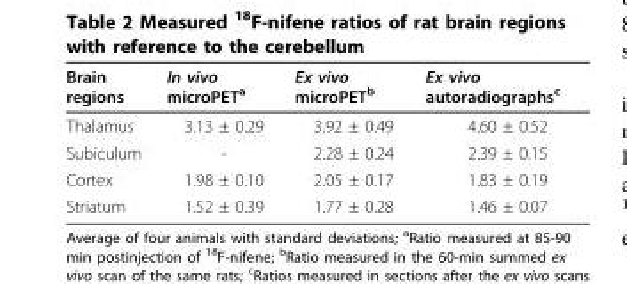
<table><thead><tr><td>Brain regions</td><td>In vivo microPET<sup>a</sup></td><td>Ex vivo microPET<sup>b</sup></td><td>Ex vivo autoradiographs<sup>c</sup></td></tr></thead><tbody><tr><td>Thalamus</td><td>3.13 ± 0.29</td><td>3.92 ± 0.49</td><td>4.60 ± 0.52</td></tr><tr><td>Subiculum</td><td>-</td><td>2.28 ± 0.24</td><td>2.39 ± 0.15</td></tr><tr><td>Cortex</td><td>1.98 ± 0.10</td><td>2.05 ± 0.17</td><td>1.83 ± 0.19</td></tr><tr><td>Striatum</td><td>1.52 ± 0.39</td><td>1.77 ± 0.28</td><td>1.46 ± 0.07</td></tr></tbody></table>